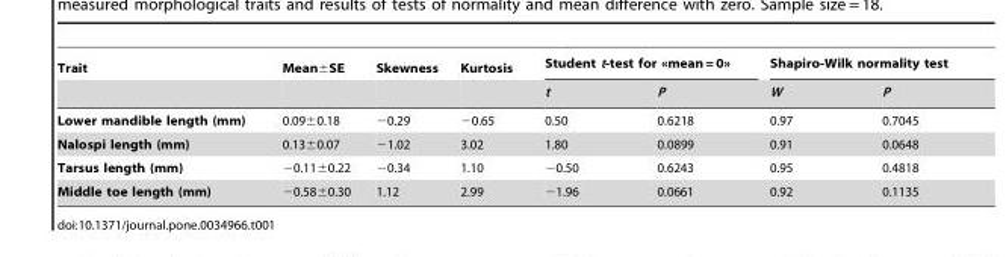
<table><thead><tr><td rowspan="2">Trait</td><td rowspan="2">Mean±SE</td><td rowspan="2">Skewness</td><td rowspan="2">Kurtosis</td><td colspan="2">Student t-test for «mean = 0»</td><td colspan="2">Shapiro-Wilk normality test</td></tr><tr><td>t</td><td>P</td><td>W</td><td>P</td></tr></thead><tbody><tr><td>Lower mandible length (mm)</td><td>0.09±0.18</td><td>−0.29</td><td>−0.65</td><td>0.50</td><td>0.6218</td><td>0.97</td><td>0.7045</td></tr><tr><td>Nalospi length (mm)</td><td>0.13±0.07</td><td>−1.02</td><td>3.02</td><td>1.80</td><td>0.0899</td><td>0.91</td><td>0.0648</td></tr><tr><td>Tarsus length (mm)</td><td>−0.11±0.22</td><td>−0.34</td><td>1.10</td><td>−0.50</td><td>0.6243</td><td>0.95</td><td>0.4818</td></tr><tr><td>Middle toe length (mm)</td><td>−0.58±0.30</td><td>1.12</td><td>2.99</td><td>−1.96</td><td>0.0661</td><td>0.92</td><td>0.1135</td></tr></tbody></table>